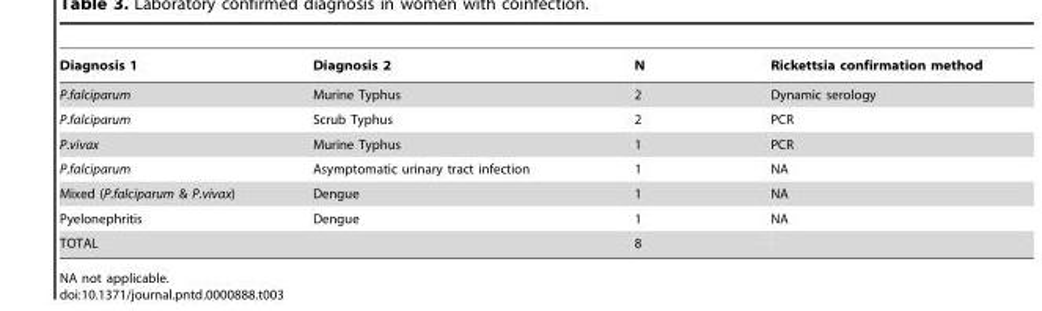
<table><thead><tr><td>Diagnosis 1</td><td>Diagnosis 2</td><td>N</td><td>Rickettsia confirmation method</td></tr></thead><tbody><tr><td>P.falciparum</td><td>Murine Typhus</td><td>2</td><td>Dynamic serology</td></tr><tr><td>P.falciparum</td><td>Scrub Typhus</td><td>2</td><td>PCR</td></tr><tr><td>P.vivax</td><td>Murine Typhus</td><td>1</td><td>PCR</td></tr><tr><td>P.falciparum</td><td>Asymptomatic urinary tract infection</td><td>1</td><td>NA</td></tr><tr><td>Mixed (P.falciparum &amp; P.vivax)</td><td>Dengue</td><td>1</td><td>NA</td></tr><tr><td>Pyelonephritis</td><td>Dengue</td><td>1</td><td>NA</td></tr><tr><td>TOTAL</td><td></td><td>8</td><td></td></tr></tbody></table>